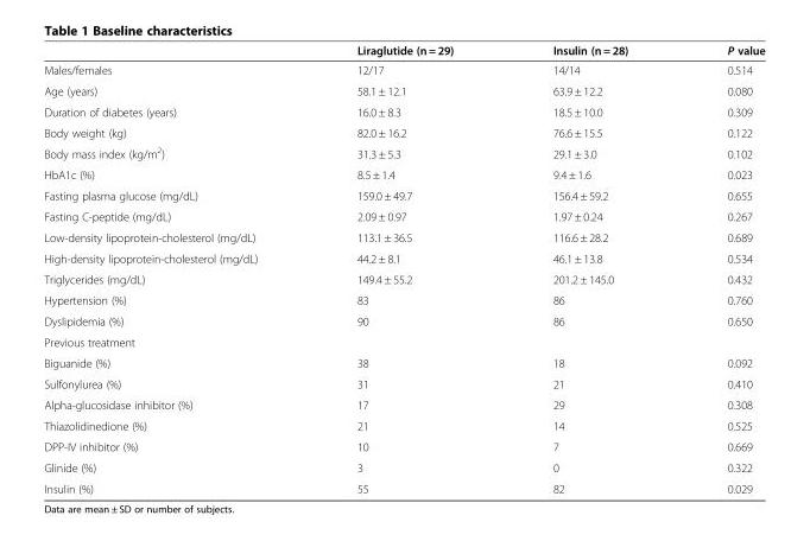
<table><thead><tr><td></td><td>Liraglutide (n = 29)</td><td>Insulin (n = 28)</td><td>P value</td></tr></thead><tbody><tr><td>Males/females</td><td>12/17</td><td>14/14</td><td>0.514</td></tr><tr><td>Age (years)</td><td>58.1 ± 12.1</td><td>63.9 ± 12.2</td><td>0.080</td></tr><tr><td>Duration of diabetes (years)</td><td>16.0 ± 8.3</td><td>18.5 ± 10.0</td><td>0.309</td></tr><tr><td>Body weight (kg)</td><td>82.0 ± 16.2</td><td>76.6 ± 15.5</td><td>0.122</td></tr><tr><td>Body mass index (kg/m<sup>2</sup>)</td><td>31.3 ± 5.3</td><td>29.1 ± 3.0</td><td>0.102</td></tr><tr><td>HbA1c (%)</td><td>8.5 ± 1.4</td><td>9.4 ± 1.6</td><td>0.023</td></tr><tr><td>Fasting plasma glucose (mg/dL)</td><td>159.0 ± 49.7</td><td>156.4 ± 59.2</td><td>0.655</td></tr><tr><td>Fasting C-peptide (mg/dL)</td><td>2.09 ± 0.97</td><td>1.97 ± 0.24</td><td>0.267</td></tr><tr><td>Low-density lipoprotein-cholesterol (mg/dL)</td><td>113.1 ± 36.5</td><td>116.6 ± 28.2</td><td>0.689</td></tr><tr><td>High-density lipoprotein-cholesterol (mg/dL)</td><td>44.2 ± 8.1</td><td>46.1 ± 13.8</td><td>0.534</td></tr><tr><td>Triglycerides (mg/dL)</td><td>149.4 ± 55.2</td><td>201.2 ± 145.0</td><td>0.432</td></tr><tr><td>Hypertension (%)</td><td>83</td><td>86</td><td>0.760</td></tr><tr><td>Dyslipidemia (%)</td><td>90</td><td>86</td><td>0.650</td></tr><tr><td colspan="4">Previous treatment</td></tr><tr><td>Biguanide (%)</td><td>38</td><td>18</td><td>0.092</td></tr><tr><td>Sulfonylurea (%)</td><td>31</td><td>21</td><td>0.410</td></tr><tr><td>Alpha-glucosidase inhibitor (%)</td><td>17</td><td>29</td><td>0.308</td></tr><tr><td>Thiazolidinedione (%)</td><td>21</td><td>14</td><td>0.525</td></tr><tr><td>DPP-IV inhibitor (%)</td><td>10</td><td>7</td><td>0.669</td></tr><tr><td>Glinide (%)</td><td>3</td><td>0</td><td>0.322</td></tr><tr><td>Insulin (%)</td><td>55</td><td>82</td><td>0.029</td></tr></tbody></table>